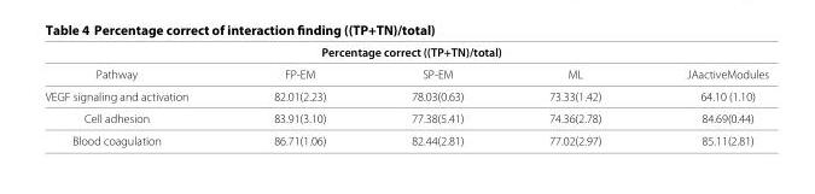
<table><thead><tr><td colspan="5">Percentage correct ((TP+TN)/total)</td></tr><tr><td>Pathway</td><td>FP-EM</td><td>SP-EM</td><td>ML</td><td>JAactiveModules</td></tr></thead><tbody><tr><td>VEGF signaling and activation</td><td>82.01(2.23)</td><td>78.03(0.63)</td><td>73.33(1.42)</td><td>64.10 (1.10)</td></tr><tr><td>Cell adhesion</td><td>83.91(3.10)</td><td>77.38(5.41)</td><td>74.36(2.78)</td><td>84.69(0.44)</td></tr><tr><td>Blood coagulation</td><td>86.71(1.06)</td><td>82.44(2.81)</td><td>77.02(2.97)</td><td>85.11(2.81)</td></tr></tbody></table>